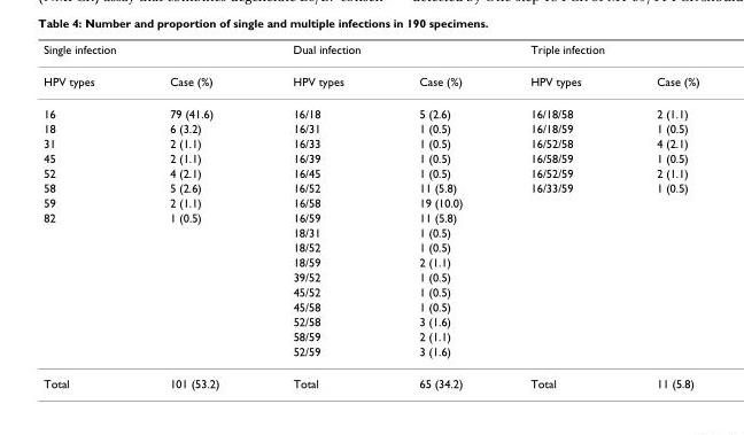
<table><thead><tr><td colspan="2">Single infection</td><td colspan="2">Dual infection</td><td colspan="2">Triple infection</td></tr><tr><td>HPV types</td><td>Case (%)</td><td>HPV types</td><td>Case (%)</td><td>HPV types</td><td>Case (%)</td></tr></thead><tbody><tr><td>16</td><td>79 (41.6)</td><td>16/18</td><td>5 (2.6)</td><td>16/18/58</td><td>2 (1.1)</td></tr><tr><td>18</td><td>6 (3.2)</td><td>16/31</td><td>1 (0.5)</td><td>16/18/59</td><td>1 (0.5)</td></tr><tr><td>31</td><td>2 (1.1)</td><td>16/33</td><td>1 (0.5)</td><td>16/52/58</td><td>4 (2.1)</td></tr><tr><td>45</td><td>2 (1.1)</td><td>16/39</td><td>1 (0.5)</td><td>16/58/59</td><td>1 (0.5)</td></tr><tr><td>52</td><td>4 (2.1)</td><td>16/45</td><td>1 (0.5)</td><td>16/52/59</td><td>2 (1.1)</td></tr><tr><td>58</td><td>5 (2.6)</td><td>16/52</td><td>11 (5.8)</td><td>16/33/59</td><td>1 (0.5)</td></tr><tr><td>59</td><td>2 (1.1)</td><td>16/58</td><td>19 (10.0)</td><td></td><td></td></tr><tr><td rowspan="10">82</td><td>1 (0.5)</td><td>16/59</td><td>11 (5.8)</td><td></td><td></td></tr><tr><td></td><td>18/31</td><td>1 (0.5)</td><td></td><td></td></tr><tr><td></td><td>18/52</td><td>1 (0.5)</td><td></td><td></td></tr><tr><td></td><td>18/59</td><td>2 (1.1)</td><td></td><td></td></tr><tr><td></td><td>39/52</td><td>1 (0.5)</td><td></td><td></td></tr><tr><td></td><td>45/52</td><td>1 (0.5)</td><td></td><td></td></tr><tr><td></td><td>45/58</td><td>1 (0.5)</td><td></td><td></td></tr><tr><td></td><td>52/58</td><td>3 (1.6)</td><td></td><td></td></tr><tr><td></td><td>58/59</td><td>2 (1.1)</td><td></td><td></td></tr><tr><td></td><td>52/59</td><td>3 (1.6)</td><td></td><td></td></tr><tr><td>Total</td><td>101 (53.2)</td><td>Total</td><td>65 (34.2)</td><td>Total</td><td>11 (5.8)</td></tr></tbody></table>